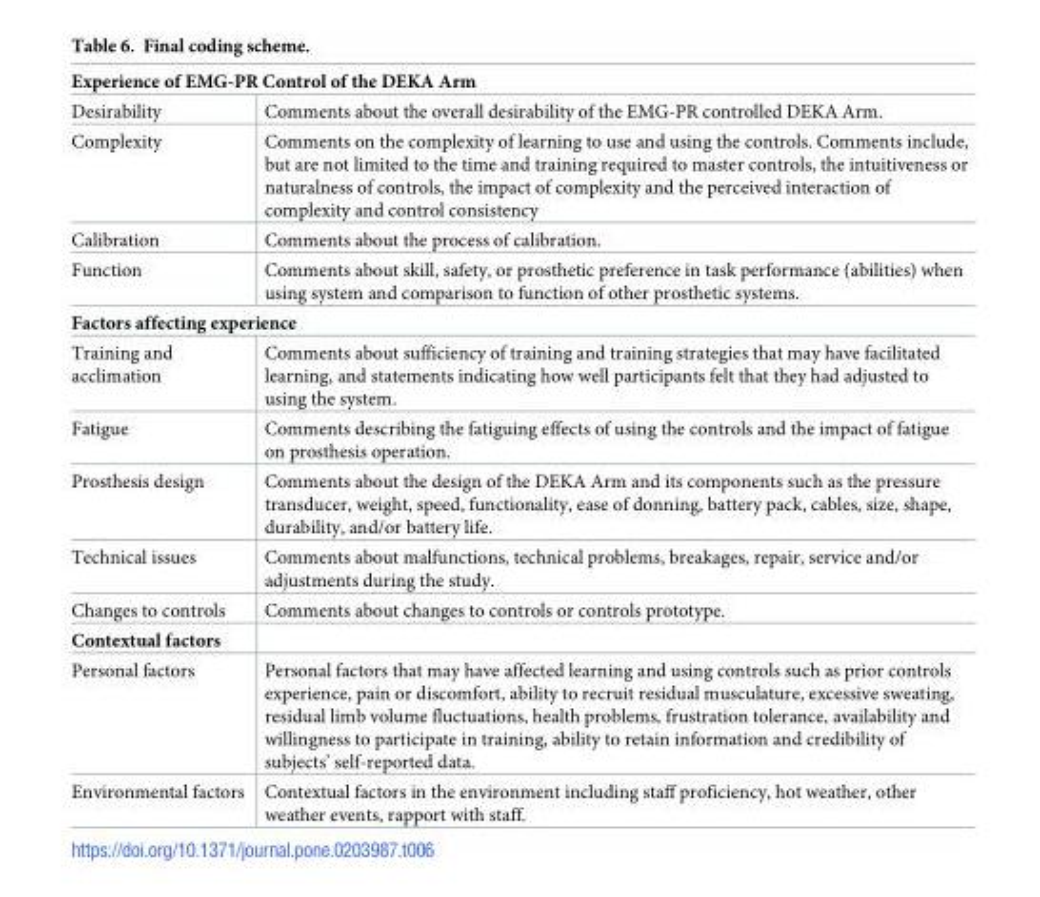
<table><tbody><tr><td colspan="2">Experience of EMG-PR Control of the DEKA Arm</td></tr><tr><td>Desirability</td><td>Comments about the overall desirability of the EMG-PR controlled DEKA Arm.</td></tr><tr><td>Complexity</td><td>Comments on the complexity of learning to use and using the controls. Comments include, but are not limited to the time and training required to master controls, the intuitiveness or naturalness of controls, the impact of complexity and the perceived interaction of complexity and control consistency</td></tr><tr><td>Calibration</td><td>Comments about the process of calibration.</td></tr><tr><td>Function</td><td>Comments about skill, safety, or prosthetic preference in task performance (abilities) when using system and comparison to function of other prosthetic systems.</td></tr><tr><td colspan="2">Factors affecting experience</td></tr><tr><td>Training and acclimation</td><td>Comments about sufficiency of training and training strategies that may have facilitated learning, and statements indicating how well participants felt that they had adjusted to using the system.</td></tr><tr><td>Fatigue</td><td>Comments describing the fatiguing effects of using the controls and the impact of fatigue on prosthesis operation.</td></tr><tr><td>Prosthesis design</td><td>Comments about the design of the DEKA Arm and its components such as the pressure transducer, weight, speed, functionality, ease of donning, battery pack, cables, size, shape, durability, and/or battery life.</td></tr><tr><td>Technical issues</td><td>Comments about malfunctions, technical problems, breakages, repair, service and/or adjustments during the study.</td></tr><tr><td>Changes to controls</td><td>Comments about changes to controls or controls prototype.</td></tr><tr><td colspan="2">Contextual factors</td></tr><tr><td>Personal factors</td><td>Personal factors that may have affected learning and using controls such as prior controls experience, pain or discomfort, ability to recruit residual musculature, excessive sweating, residual limb volume fluctuations, health problems, frustration tolerance, availability and willingness to participate in training, ability to retain information and credibility of subjects’ self-reported data.</td></tr><tr><td>Environmental factors</td><td>Contextual factors in the environment including staff proficiency, hot weather, other weather events, rapport with staff.</td></tr></tbody></table>